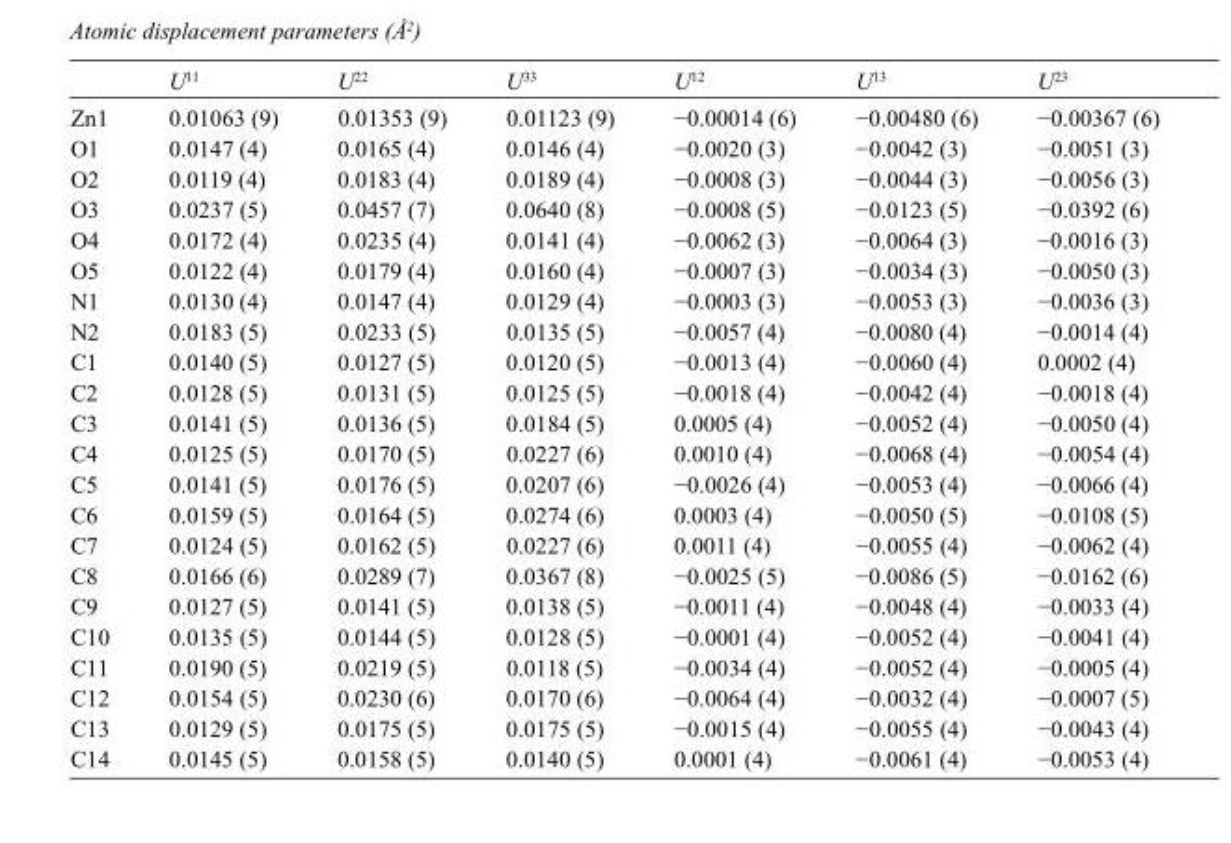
<table><thead><tr><td></td><td>U<sup>11</sup></td><td>U<sup>22</sup></td><td>U<sup>33</sup></td><td>U<sup>12</sup></td><td>U<sup>13</sup></td><td>U<sup>23</sup></td></tr></thead><tbody><tr><td>Zn1</td><td>0.01063 (9)</td><td>0.01353 (9)</td><td>0.01123 (9)</td><td>−0.00014 (6)</td><td>−0.00480 (6)</td><td>−0.00367 (6)</td></tr><tr><td>O1</td><td>0.0147 (4)</td><td>0.0165 (4)</td><td>0.0146 (4)</td><td>−0.0020 (3)</td><td>−0.0042 (3)</td><td>−0.0051 (3)</td></tr><tr><td>O2</td><td>0.0119 (4)</td><td>0.0183 (4)</td><td>0.0189 (4)</td><td>−0.0008 (3)</td><td>−0.0044 (3)</td><td>−0.0056 (3)</td></tr><tr><td>O3</td><td>0.0237 (5)</td><td>0.0457 (7)</td><td>0.0640 (8)</td><td>−0.0008 (5)</td><td>−0.0123 (5)</td><td>−0.0392 (6)</td></tr><tr><td>O4</td><td>0.0172 (4)</td><td>0.0235 (4)</td><td>0.0141 (4)</td><td>−0.0062 (3)</td><td>−0.0064 (3)</td><td>−0.0016 (3)</td></tr><tr><td>O5</td><td>0.0122 (4)</td><td>0.0179 (4)</td><td>0.0160 (4)</td><td>−0.0007 (3)</td><td>−0.0034 (3)</td><td>−0.0050 (3)</td></tr><tr><td>N1</td><td>0.0130 (4)</td><td>0.0147 (4)</td><td>0.0129 (4)</td><td>−0.0003 (3)</td><td>−0.0053 (3)</td><td>−0.0036 (3)</td></tr><tr><td>N2</td><td>0.0183 (5)</td><td>0.0233 (5)</td><td>0.0135 (5)</td><td>−0.0057 (4)</td><td>−0.0080 (4)</td><td>−0.0014 (4)</td></tr><tr><td>C1</td><td>0.0140 (5)</td><td>0.0127 (5)</td><td>0.0120 (5)</td><td>−0.0013 (4)</td><td>−0.0060 (4)</td><td>0.0002 (4)</td></tr><tr><td>C2</td><td>0.0128 (5)</td><td>0.0131 (5)</td><td>0.0125 (5)</td><td>−0.0018 (4)</td><td>−0.0042 (4)</td><td>−0.0018 (4)</td></tr><tr><td>C3</td><td>0.0141 (5)</td><td>0.0136 (5)</td><td>0.0184 (5)</td><td>0.0005 (4)</td><td>−0.0052 (4)</td><td>−0.0050 (4)</td></tr><tr><td>C4</td><td>0.0125 (5)</td><td>0.0170 (5)</td><td>0.0227 (6)</td><td>0.0010 (4)</td><td>−0.0068 (4)</td><td>−0.0054 (4)</td></tr><tr><td>C5</td><td>0.0141 (5)</td><td>0.0176 (5)</td><td>0.0207 (6)</td><td>−0.0026 (4)</td><td>−0.0053 (4)</td><td>−0.0066 (4)</td></tr><tr><td>C6</td><td>0.0159 (5)</td><td>0.0164 (5)</td><td>0.0274 (6)</td><td>0.0003 (4)</td><td>−0.0050 (5)</td><td>−0.0108 (5)</td></tr><tr><td>C7</td><td>0.0124 (5)</td><td>0.0162 (5)</td><td>0.0227 (6)</td><td>0.0011 (4)</td><td>−0.0055 (4)</td><td>−0.0062 (4)</td></tr><tr><td>C8</td><td>0.0166 (6)</td><td>0.0289 (7)</td><td>0.0367 (8)</td><td>−0.0025 (5)</td><td>−0.0086 (5)</td><td>−0.0162 (6)</td></tr><tr><td>C9</td><td>0.0127 (5)</td><td>0.0141 (5)</td><td>0.0138 (5)</td><td>−0.0011 (4)</td><td>−0.0048 (4)</td><td>−0.0033 (4)</td></tr><tr><td>C10</td><td>0.0135 (5)</td><td>0.0144 (5)</td><td>0.0128 (5)</td><td>−0.0001 (4)</td><td>−0.0052 (4)</td><td>−0.0041 (4)</td></tr><tr><td>C11</td><td>0.0190 (5)</td><td>0.0219 (5)</td><td>0.0118 (5)</td><td>−0.0034 (4)</td><td>−0.0052 (4)</td><td>−0.0005 (4)</td></tr><tr><td>C12</td><td>0.0154 (5)</td><td>0.0230 (6)</td><td>0.0170 (6)</td><td>−0.0064 (4)</td><td>−0.0032 (4)</td><td>−0.0007 (5)</td></tr><tr><td>C13</td><td>0.0129 (5)</td><td>0.0175 (5)</td><td>0.0175 (5)</td><td>−0.0015 (4)</td><td>−0.0055 (4)</td><td>−0.0043 (4)</td></tr><tr><td>C14</td><td>0.0145 (5)</td><td>0.0158 (5)</td><td>0.0140 (5)</td><td>0.0001 (4)</td><td>−0.0061 (4)</td><td>−0.0053 (4)</td></tr></tbody></table>